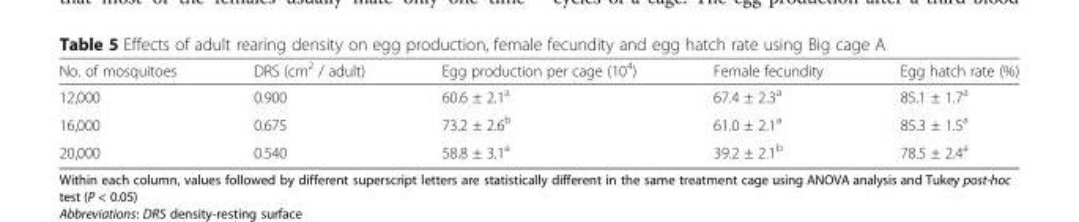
<table><thead><tr><td>No. of mosquitoes</td><td>DRS (cm<sup>2</sup> / adult)</td><td>Egg production per cage (10<sup>4</sup>)</td><td>Female fecundity</td><td>Egg hatch rate (%)</td></tr></thead><tbody><tr><td>12,000</td><td>0.900</td><td>60.6 ± 2.1<sup>a</sup></td><td>67.4 ± 2.3<sup>a</sup></td><td>85.1 ± 1.7<sup>a</sup></td></tr><tr><td>16,000</td><td>0.675</td><td>73.2 ± 2.6<sup>b</sup></td><td>61.0 ± 2.1<sup>a</sup></td><td>85.3 ± 1.5<sup>a</sup></td></tr><tr><td>20,000</td><td>0.540</td><td>58.8 ± 3.1<sup>a</sup></td><td>39.2 ± 2.1<sup>b</sup></td><td>78.5 ± 2.4<sup>a</sup></td></tr></tbody></table>